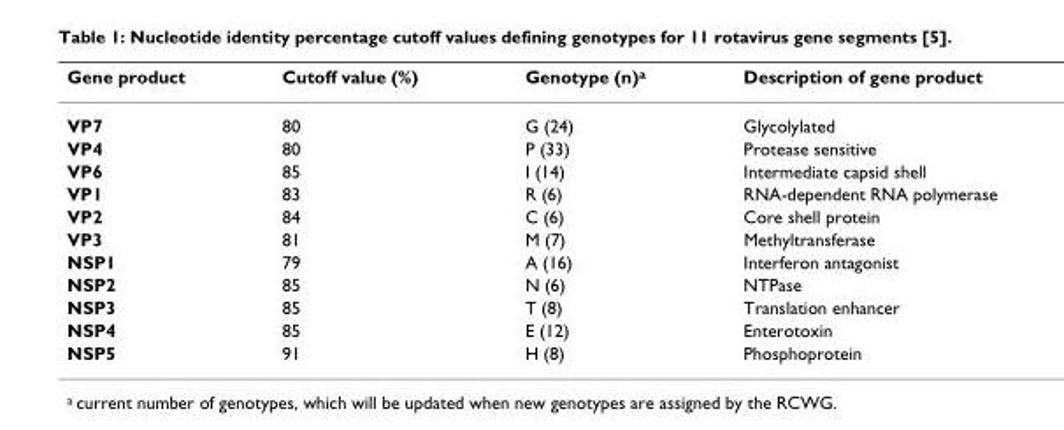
<table><thead><tr><td>Gene product</td><td>Cutoff value (%)</td><td>Genotype (n)<sup>a</sup></td><td>Description of gene product</td></tr></thead><tbody><tr><td>VP7</td><td>80</td><td>G (24)</td><td>Glycolylated</td></tr><tr><td>VP4</td><td>80</td><td>P (33)</td><td>Protease sensitive</td></tr><tr><td>VP6</td><td>85</td><td>I (14)</td><td>Intermediate capsid shell</td></tr><tr><td>VP1</td><td>83</td><td>R (6)</td><td>RNA-dependent RNA polymerase</td></tr><tr><td>VP2</td><td>84</td><td>C (6)</td><td>Core shell protein</td></tr><tr><td>VP3</td><td>81</td><td>M (7)</td><td>Methyltransferase</td></tr><tr><td>NSP1</td><td>79</td><td>A (16)</td><td>Interferon antagonist</td></tr><tr><td>NSP2</td><td>85</td><td>N (6)</td><td>NTPase</td></tr><tr><td>NSP3</td><td>85</td><td>T (8)</td><td>Translation enhancer</td></tr><tr><td>NSP4</td><td>85</td><td>E (12)</td><td>Enterotoxin</td></tr><tr><td>NSP5</td><td>91</td><td>H (8)</td><td>Phosphoprotein</td></tr></tbody></table>